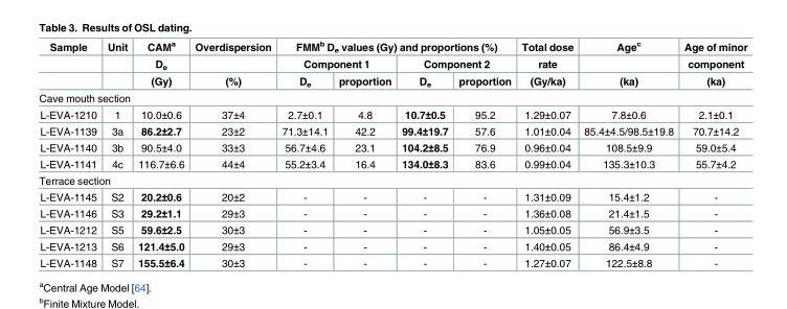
<table><thead><tr><td rowspan="3">Sample</td><td rowspan="3">Unit</td><td rowspan="3">CAMa De (Gy)</td><td rowspan="3">Overdispersion (%)</td><td colspan="4">FMM<sup>b</sup> D<sub>e</sub> values (Gy) and proportions (%)</td><td rowspan="3">Total dose rate (Gy/ka)</td><td rowspan="3">Age<sup>c</sup> (ka)</td><td rowspan="3">Age of minor component (ka)</td></tr><tr><td colspan="2">Component 1</td><td colspan="2">Component 2</td></tr><tr><td>D<sub>e</sub></td><td>proportion</td><td>D<sub>e</sub></td><td>proportion</td></tr></thead><tbody><tr><td colspan="11">Cave mouth section</td></tr><tr><td>L-EVA-1210</td><td>1</td><td>10.0±0.6</td><td>37±4</td><td>2.7±0.1</td><td>4.8</td><td>10.7±0.5</td><td>95.2</td><td>1.29±0.07</td><td>7.8±0.6</td><td>2.1±0.1</td></tr><tr><td>L-EVA-1139</td><td>3a</td><td>86.2±2.7</td><td>23±2</td><td>71.3±14.1</td><td>42.2</td><td>99.4±19.7</td><td>57.6</td><td>1.01±0.04</td><td>85.4±4.5/98.5±19.8</td><td>70.7±14.2</td></tr><tr><td>L-EVA-1140</td><td>3b</td><td>90.5±4.0</td><td>33±3</td><td>56.7±4.6</td><td>23.1</td><td>104.2±8.5</td><td>76.9</td><td>0.96±0.04</td><td>108.5±9.9</td><td>59.0±5.4</td></tr><tr><td>L-EVA-1141</td><td>4c</td><td>116.7±6.6</td><td>44±4</td><td>55.2±3.4</td><td>16.4</td><td>134.0±8.3</td><td>83.6</td><td>0.99±0.04</td><td>135.3±10.3</td><td>55.7±4.2</td></tr><tr><td colspan="11">Terrace section</td></tr><tr><td>L-EVA-1145</td><td>S2</td><td>20.2±0.6</td><td>20±2</td><td>-</td><td>-</td><td>-</td><td>-</td><td>1.31±0.09</td><td>15.4±1.2</td><td>-</td></tr><tr><td>L-EVA-1146</td><td>S3</td><td>29.2±1.1</td><td>29±3</td><td>-</td><td>-</td><td>-</td><td>-</td><td>1.36±0.08</td><td>21.4±1.5</td><td>-</td></tr><tr><td>L-EVA-1212</td><td>S5</td><td>59.6±2.5</td><td>30±3</td><td>-</td><td>-</td><td>-</td><td>-</td><td>1.05±0.05</td><td>56.9±3.5</td><td>-</td></tr><tr><td>L-EVA-1213</td><td>S6</td><td>121.4±5.0</td><td>29±3</td><td>-</td><td>-</td><td>-</td><td>-</td><td>1.40±0.05</td><td>86.4±4.9</td><td>-</td></tr><tr><td>L-EVA-1148</td><td>S7</td><td>155.5±6.4</td><td>30±3</td><td>-</td><td>-</td><td>-</td><td>-</td><td>1.27±0.07</td><td>122.5±8.8</td><td>-</td></tr></tbody></table>